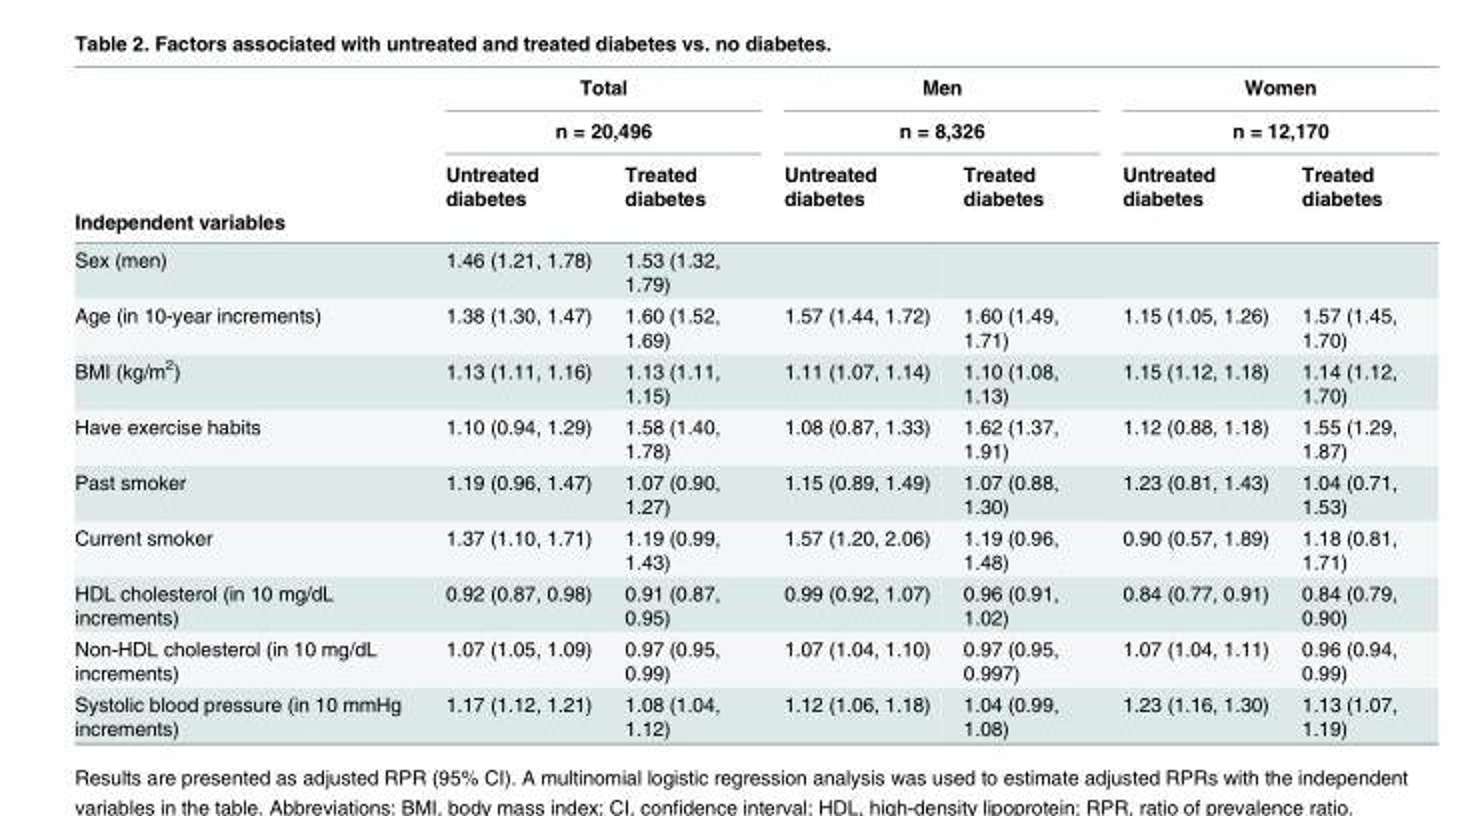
<table><thead><tr><td rowspan="4">Independent variables</td><td rowspan="2" colspan="2">Total n = 20,496</td><td rowspan="2" colspan="2">Men n = 8,326</td><td rowspan="2" colspan="2">Women n = 12,170</td></tr><tr></tr><tr><td rowspan="2">Untreated diabetes</td><td rowspan="2">Treated diabetes</td><td rowspan="2">Untreated diabetes</td><td rowspan="2">Treated diabetes</td><td rowspan="2">Untreated diabetes</td><td rowspan="2">Treated diabetes</td></tr><tr></tr></thead><tbody><tr><td>Sex (men)</td><td>1.46 (1.21, 1.78)</td><td>1.53 (1.32, 1.79)</td><td></td><td></td><td></td><td></td></tr><tr><td>Age (in 10-year increments)</td><td>1.38 (1.30, 1.47)</td><td>1.60 (1.52, 1.69)</td><td>1.57 (1.44, 1.72)</td><td>1.60 (1.49, 1.71)</td><td>1.15 (1.05, 1.26)</td><td>1.57 (1.45, 1.70)</td></tr><tr><td>BMI (kg/m<sup>2</sup>)</td><td>1.13 (1.11, 1.16)</td><td>1.13 (1.11, 1.15)</td><td>1.11 (1.07, 1.14)</td><td>1.10 (1.08, 1.13)</td><td>1.15 (1.12, 1.18)</td><td>1.14 (1.12, 1.70)</td></tr><tr><td>Have exercise habits</td><td>1.10 (0.94, 1.29)</td><td>1.58 (1.40, 1.78)</td><td>1.08 (0.87, 1.33)</td><td>1.62 (1.37, 1.91)</td><td>1.12 (0.88, 1.18)</td><td>1.55 (1.29, 1.87)</td></tr><tr><td>Past smoker</td><td>1.19 (0.96, 1.47)</td><td>1.07 (0.90, 1.27)</td><td>1.15 (0.89, 1.49)</td><td>1.07 (0.88, 1.30)</td><td>1.23 (0.81, 1.43)</td><td>1.04 (0.71, 1.53)</td></tr><tr><td>Current smoker</td><td>1.37 (1.10, 1.71)</td><td>1.19 (0.99, 1.43)</td><td>1.57 (1.20, 2.06)</td><td>1.19 (0.96, 1.48)</td><td>0.90 (0.57, 1.89)</td><td>1.18 (0.81, 1.71)</td></tr><tr><td>HDL cholesterol (in 10 mg/dL increments)</td><td>0.92 (0.87, 0.98)</td><td>0.91 (0.87, 0.95)</td><td>0.99 (0.92, 1.07)</td><td>0.96 (0.91, 1.02)</td><td>0.84 (0.77, 0.91)</td><td>0.84 (0.79, 0.90)</td></tr><tr><td>Non-HDL cholesterol (in 10 mg/dL increments)</td><td>1.07 (1.05, 1.09)</td><td>0.97 (0.95, 0.99)</td><td>1.07 (1.04, 1.10)</td><td>0.97 (0.95, 0.997)</td><td>1.07 (1.04, 1.11)</td><td>0.96 (0.94, 0.99)</td></tr><tr><td>Systolic blood pressure (in 10 mmHg increments)</td><td>1.17 (1.12, 1.21)</td><td>1.08 (1.04, 1.12)</td><td>1.12 (1.06, 1.18)</td><td>1.04 (0.99, 1.08)</td><td>1.23 (1.16, 1.30)</td><td>1.13 (1.07, 1.19)</td></tr></tbody></table>